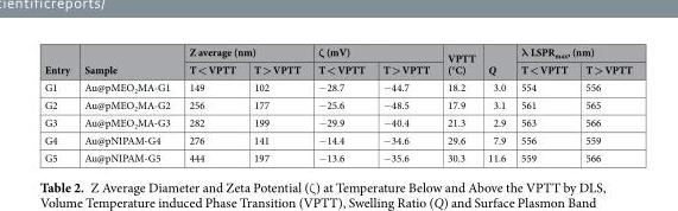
<table><thead><tr><td rowspan="2">Entry</td><td rowspan="2">Sample</td><td colspan="2">Z average (nm)</td><td colspan="2">ζ (mV)</td><td rowspan="2">VPTT (°C)</td><td rowspan="2">Q</td><td colspan="2">λ LSPR<sub>max</sub>, (nm)</td></tr><tr><td>T &lt; VPTT</td><td>T &gt; VPTT</td><td>T &lt; VPTT</td><td>T &gt; VPTT</td><td>T &lt; VPTT</td><td>T &gt; VPTT</td></tr></thead><tbody><tr><td>G1</td><td>Au@pMEO<sub>2</sub>MA-G1</td><td>149</td><td>102</td><td>−28.7</td><td>−44.7</td><td>18.2</td><td>3.0</td><td>554</td><td>556</td></tr><tr><td>G2</td><td>Au@pMEO<sub>2</sub>MA-G2</td><td>256</td><td>177</td><td>−25.6</td><td>−48.5</td><td>17.9</td><td>3.1</td><td>561</td><td>565</td></tr><tr><td>G3</td><td>Au@pMEO<sub>2</sub>MA-G3</td><td>282</td><td>199</td><td>−29.9</td><td>−40.4</td><td>21.3</td><td>2.9</td><td>563</td><td>566</td></tr><tr><td>G4</td><td>Au@pNIPAM-G4</td><td>276</td><td>141</td><td>−14.4</td><td>−34.6</td><td>29.6</td><td>7.9</td><td>556</td><td>559</td></tr><tr><td>G5</td><td>Au@pNIPAM-G5</td><td>444</td><td>197</td><td>−13.6</td><td>−35.6</td><td>30.3</td><td>11.6</td><td>559</td><td>566</td></tr></tbody></table>